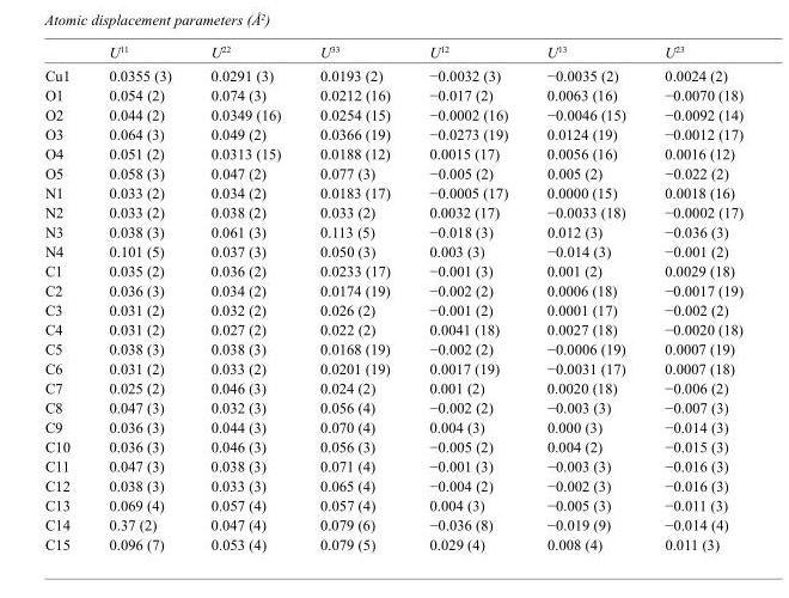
<table><thead><tr><td></td><td>U<sup>11</sup></td><td>U<sup>22</sup></td><td>U<sup>33</sup></td><td>U<sup>12</sup></td><td>U<sup>13</sup></td><td>U<sup>23</sup></td></tr></thead><tbody><tr><td>Cu1</td><td>0.0355 (3)</td><td>0.0291 (3)</td><td>0.0193 (2)</td><td>−0.0032 (3)</td><td>−0.0035 (2)</td><td>0.0024 (2)</td></tr><tr><td>O1</td><td>0.054 (2)</td><td>0.074 (3)</td><td>0.0212 (16)</td><td>−0.017 (2)</td><td>0.0063 (16)</td><td>−0.0070 (18)</td></tr><tr><td>O2</td><td>0.044 (2)</td><td>0.0349 (16)</td><td>0.0254 (15)</td><td>−0.0002 (16)</td><td>−0.0046 (15)</td><td>−0.0092 (14)</td></tr><tr><td>O3</td><td>0.064 (3)</td><td>0.049 (2)</td><td>0.0366 (19)</td><td>−0.0273 (19)</td><td>0.0124 (19)</td><td>−0.0012 (17)</td></tr><tr><td>O4</td><td>0.051 (2)</td><td>0.0313 (15)</td><td>0.0188 (12)</td><td>0.0015 (17)</td><td>0.0056 (16)</td><td>0.0016 (12)</td></tr><tr><td>O5</td><td>0.058 (3)</td><td>0.047 (2)</td><td>0.077 (3)</td><td>−0.005 (2)</td><td>0.005 (2)</td><td>−0.022 (2)</td></tr><tr><td>N1</td><td>0.033 (2)</td><td>0.034 (2)</td><td>0.0183 (17)</td><td>−0.0005 (17)</td><td>0.0000 (15)</td><td>0.0018 (16)</td></tr><tr><td>N2</td><td>0.033 (2)</td><td>0.038 (2)</td><td>0.033 (2)</td><td>0.0032 (17)</td><td>−0.0033 (18)</td><td>−0.0002 (17)</td></tr><tr><td>N3</td><td>0.038 (3)</td><td>0.061 (3)</td><td>0.113 (5)</td><td>−0.018 (3)</td><td>0.012 (3)</td><td>−0.036 (3)</td></tr><tr><td>N4</td><td>0.101 (5)</td><td>0.037 (3)</td><td>0.050 (3)</td><td>0.003 (3)</td><td>−0.014 (3)</td><td>−0.001 (2)</td></tr><tr><td>C1</td><td>0.035 (2)</td><td>0.036 (2)</td><td>0.0233 (17)</td><td>−0.001 (3)</td><td>0.001 (2)</td><td>0.0029 (18)</td></tr><tr><td>C2</td><td>0.036 (3)</td><td>0.034 (2)</td><td>0.0174 (19)</td><td>−0.002 (2)</td><td>0.0006 (18)</td><td>−0.0017 (19)</td></tr><tr><td>C3</td><td>0.031 (2)</td><td>0.032 (2)</td><td>0.026 (2)</td><td>−0.001 (2)</td><td>0.0001 (17)</td><td>−0.002 (2)</td></tr><tr><td>C4</td><td>0.031 (2)</td><td>0.027 (2)</td><td>0.022 (2)</td><td>0.0041 (18)</td><td>0.0027 (18)</td><td>−0.0020 (18)</td></tr><tr><td>C5</td><td>0.038 (3)</td><td>0.038 (3)</td><td>0.0168 (19)</td><td>−0.002 (2)</td><td>−0.0006 (19)</td><td>0.0007 (19)</td></tr><tr><td>C6</td><td>0.031 (2)</td><td>0.033 (2)</td><td>0.0201 (19)</td><td>0.0017 (19)</td><td>−0.0031 (17)</td><td>0.0007 (18)</td></tr><tr><td>C7</td><td>0.025 (2)</td><td>0.046 (3)</td><td>0.024 (2)</td><td>0.001 (2)</td><td>0.0020 (18)</td><td>−0.006 (2)</td></tr><tr><td>C8</td><td>0.047 (3)</td><td>0.032 (3)</td><td>0.056 (4)</td><td>−0.002 (2)</td><td>−0.003 (3)</td><td>−0.007 (3)</td></tr><tr><td>C9</td><td>0.036 (3)</td><td>0.044 (3)</td><td>0.070 (4)</td><td>0.004 (3)</td><td>0.000 (3)</td><td>−0.014 (3)</td></tr><tr><td>C10</td><td>0.036 (3)</td><td>0.046 (3)</td><td>0.056 (3)</td><td>−0.005 (2)</td><td>0.004 (2)</td><td>−0.015 (3)</td></tr><tr><td>C11</td><td>0.047 (3)</td><td>0.038 (3)</td><td>0.071 (4)</td><td>−0.001 (3)</td><td>−0.003 (3)</td><td>−0.016 (3)</td></tr><tr><td>C12</td><td>0.038 (3)</td><td>0.033 (3)</td><td>0.065 (4)</td><td>−0.004 (2)</td><td>−0.002 (3)</td><td>−0.016 (3)</td></tr><tr><td>C13</td><td>0.069 (4)</td><td>0.057 (4)</td><td>0.057 (4)</td><td>0.004 (3)</td><td>−0.005 (3)</td><td>−0.011 (3)</td></tr><tr><td>C14</td><td>0.37 (2)</td><td>0.047 (4)</td><td>0.079 (6)</td><td>−0.036 (8)</td><td>−0.019 (9)</td><td>−0.014 (4)</td></tr><tr><td>C15</td><td>0.096 (7)</td><td>0.053 (4)</td><td>0.079 (5)</td><td>0.029 (4)</td><td>0.008 (4)</td><td>0.011 (3)</td></tr></tbody></table>